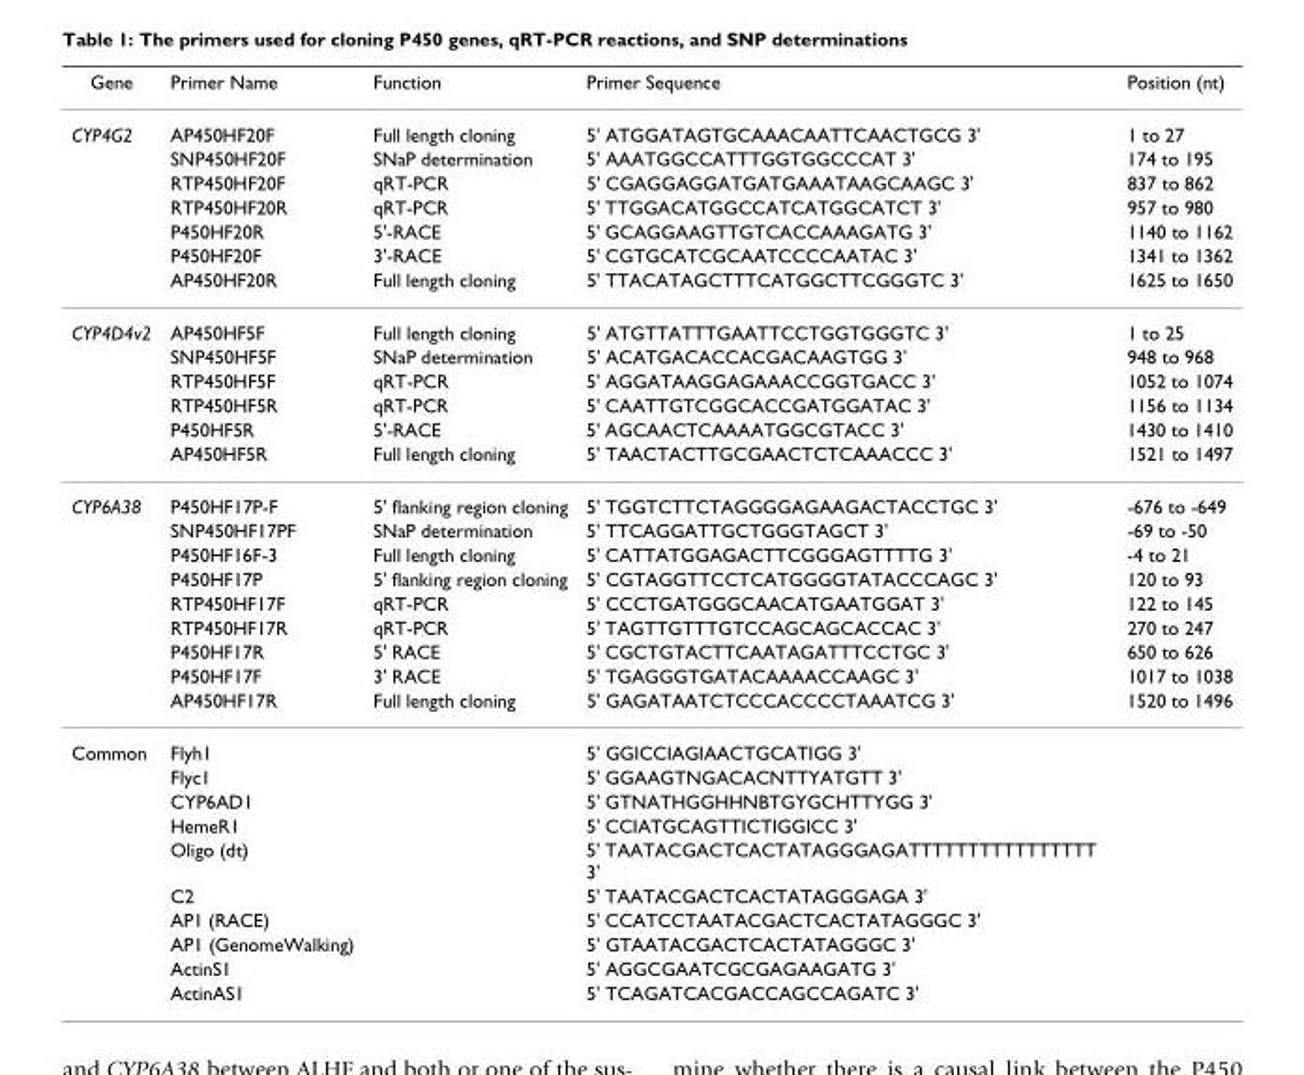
<table><thead><tr><td>Gene</td><td>Primer Name</td><td>Function</td><td>Primer Sequence</td><td>Position (nt)</td></tr></thead><tbody><tr><td rowspan="7">CYP4G2</td><td>AP450HF20F</td><td>Full length cloning</td><td>5&#x27; ATGGATAGTGCAAACAATTCAACTGCG 3&#x27;</td><td>1 to 27</td></tr><tr><td>SNP450HF20F</td><td>SNaP determination</td><td>5&#x27; AAATGGCCATTTGGTGGCCCAT 3&#x27;</td><td>174 to 195</td></tr><tr><td>RTP450HF20F</td><td>qRT-PCR</td><td>5&#x27; CGAGGAGGATGATGAAATAAGCAAGC 3&#x27;</td><td>837 to 862</td></tr><tr><td>RTP450HF20R</td><td>qRT-PCR</td><td>5&#x27; TTGGACATGGCCATCATGGCATCT 3&#x27;</td><td>957 to 980</td></tr><tr><td>P450HF20R</td><td>5&#x27;-RACE</td><td>5&#x27; GCAGGAAGTTGTCACCAAAGATG 3&#x27;</td><td>1140 to 1162</td></tr><tr><td>P450HF20F</td><td>3&#x27;-RACE</td><td>5&#x27; CGTGCATCGCAATCCCCAATAC 3&#x27;</td><td>1341 to 1362</td></tr><tr><td>AP450HF20R</td><td>Full length cloning</td><td>5&#x27; TTACATAGCTTTCATGGCTTCGGGTC 3&#x27;</td><td>1625 to 1650</td></tr><tr><td rowspan="6">CYP4D4v2</td><td>AP450HF5F</td><td>Full length cloning</td><td>5&#x27; ATGTTATTTGAATTCCTGGTGGGTC 3&#x27;</td><td>1 to 25</td></tr><tr><td>SNP450HF5F</td><td>SNaP determination</td><td>5&#x27; ACATGACACCACGACAAGTGG 3&#x27;</td><td>948 to 968</td></tr><tr><td>RTP450HF5F</td><td>qRT-PCR</td><td>5&#x27; AGGATAAGGAGAAACCGGTGACC 3&#x27;</td><td>1052 to 1074</td></tr><tr><td>RTP450HF5R</td><td>qRT-PCR</td><td>5&#x27; CAATTGTCGGCACCGATGGATAC 3&#x27;</td><td>1156 to 1134</td></tr><tr><td>P450HF5R</td><td>5&#x27;-RACE</td><td>5&#x27; AGCAACTCAAAATGGCGTACC 3&#x27;</td><td>1430 to 1410</td></tr><tr><td>AP450HF5R</td><td>Full length cloning</td><td>5&#x27; TAACTACTTGCGAACTCTCAAACCC 3&#x27;</td><td>1521 to 1497</td></tr><tr><td rowspan="9">CYP6A38</td><td>P450HF17P-F</td><td>5&#x27; flanking region cloning</td><td>5&#x27; TGGTCTTCTAGGGGAGAAGACTACCTGC 3&#x27;</td><td>-676 to -649</td></tr><tr><td>SNP450HF17PF</td><td>SNaP determination</td><td>5&#x27; TTCAGGATTGCTGGGTAGCT 3&#x27;</td><td>-69 to -50</td></tr><tr><td>P450HF16F-3</td><td>Full length cloning</td><td>5&#x27; CATTATGGAGACTTCGGGAGTTTTG 3&#x27;</td><td>-4 to 21</td></tr><tr><td>P450HF17P</td><td>5&#x27; flanking region cloning</td><td>5&#x27; CGTAGGTTCCTCATGGGGTATACCCAGC 3&#x27;</td><td>120 to 93</td></tr><tr><td>RTP450HF17F</td><td>qRT-PCR</td><td>5&#x27; CCCTGATGGGCAACATGAATGGAT 3&#x27;</td><td>122 to 145</td></tr><tr><td>RTP450HF17R</td><td>qRT-PCR</td><td>5&#x27; TAGTTGTTTGTCCAGCAGCACCAC 3&#x27;</td><td>270 to 247</td></tr><tr><td>P450HF17R</td><td>5&#x27; RACE</td><td>5&#x27; CGCTGTACTTCAATAGATTTCCTGC 3&#x27;</td><td>650 to 626</td></tr><tr><td>P450HF17F</td><td>3&#x27; RACE</td><td>5&#x27; TGAGGGTGATACAAAACCAAGC 3&#x27;</td><td>1017 to 1038</td></tr><tr><td>AP450HF17R</td><td>Full length cloning</td><td>5&#x27; GAGATAATCTCCCACCCCTAAATCG 3&#x27;</td><td>1520 to 1496</td></tr><tr><td rowspan="10">Common</td><td>Flyh1</td><td></td><td>5&#x27; GGICCIAGIAACTGCATIGG 3&#x27;</td><td></td></tr><tr><td>Flyc1</td><td></td><td>5&#x27; GGAAGTNGACACNTTYATGTT 3&#x27;</td><td></td></tr><tr><td>CYP6AD1</td><td></td><td>5&#x27; GTNATHGGHHNBTGYGCHTTYGG 3&#x27;</td><td></td></tr><tr><td>HemeR1</td><td></td><td>5&#x27; CCIATGCAGTTICTIGGICC 3&#x27;</td><td></td></tr><tr><td>Oligo (dt)</td><td></td><td>5&#x27; TAATACGACTCACTATAGGGAGATTTTTTTTTTTTTTTT 3&#x27;</td><td></td></tr><tr><td>C2</td><td></td><td>5&#x27; TAATACGACTCACTATAGGGAGA 3&#x27;</td><td></td></tr><tr><td>AP1 (RACE)</td><td></td><td>5&#x27; CCATCCTAATACGACTCACTATAGGGC 3&#x27;</td><td></td></tr><tr><td>AP1 (GenomeWalking)</td><td></td><td>5&#x27; GTAATACGACTCACTATAGGGC 3&#x27;</td><td></td></tr><tr><td>ActinS1</td><td></td><td>5&#x27; AGGCGAATCGCGAGAAGATG 3&#x27;</td><td></td></tr><tr><td>ActinAS1</td><td></td><td>5&#x27; TCAGATCACGACCAGCCAGATC 3&#x27;</td><td></td></tr></tbody></table>